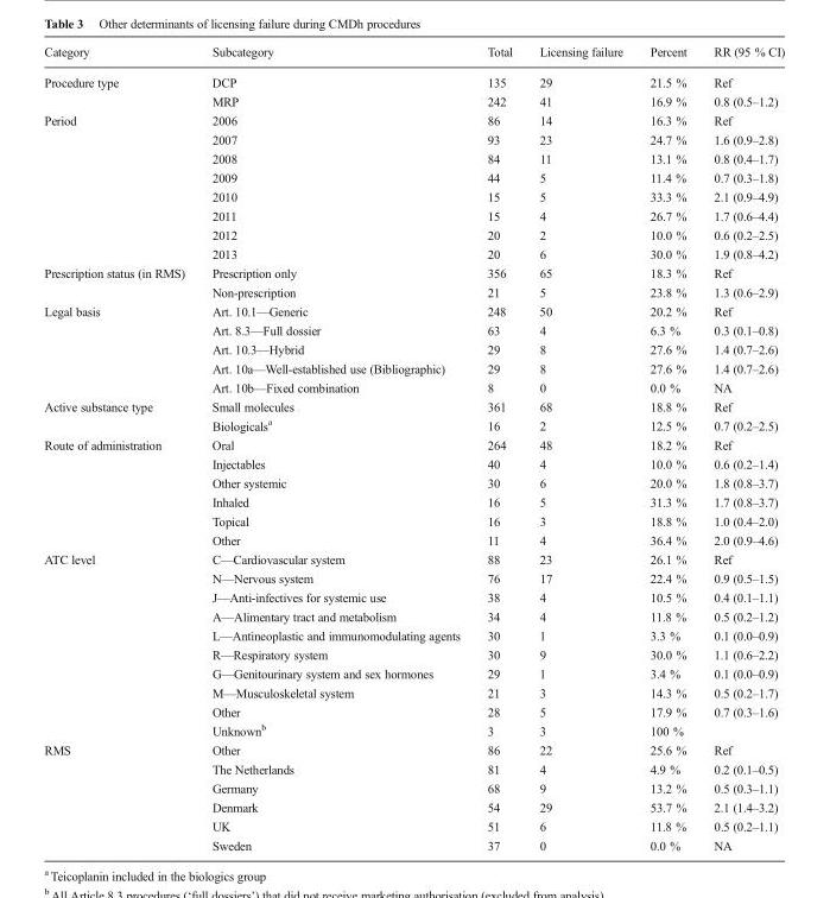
<table><thead><tr><td>Category</td><td>Subcategory</td><td>Total</td><td>Licensing failure</td><td>Percent</td><td>RR (95 % CI)</td></tr></thead><tbody><tr><td rowspan="2">Procedure type</td><td>DCP</td><td>135</td><td>29</td><td>21.5 %</td><td>Ref</td></tr><tr><td>MRP</td><td>242</td><td>41</td><td>16.9 %</td><td>0.8 (0.5–1.2)</td></tr><tr><td rowspan="8">Period</td><td>2006</td><td>86</td><td>14</td><td>16.3 %</td><td>Ref</td></tr><tr><td>2007</td><td>93</td><td>23</td><td>24.7 %</td><td>1.6 (0.9–2.8)</td></tr><tr><td>2008</td><td>84</td><td>11</td><td>13.1 %</td><td>0.8 (0.4–1.7)</td></tr><tr><td>2009</td><td>44</td><td>5</td><td>11.4 %</td><td>0.7 (0.3–1.8)</td></tr><tr><td>2010</td><td>15</td><td>5</td><td>33.3 %</td><td>2.1 (0.9–4.9)</td></tr><tr><td>2011</td><td>15</td><td>4</td><td>26.7 %</td><td>1.7 (0.6–4.4)</td></tr><tr><td>2012</td><td>20</td><td>2</td><td>10.0 %</td><td>0.6 (0.2–2.5)</td></tr><tr><td>2013</td><td>20</td><td>6</td><td>30.0 %</td><td>1.9 (0.8–4.2)</td></tr><tr><td rowspan="2">Prescription status (in RMS)</td><td>Prescription only</td><td>356</td><td>65</td><td>18.3 %</td><td>Ref</td></tr><tr><td>Non-prescription</td><td>21</td><td>5</td><td>23.8 %</td><td>1.3 (0.6–2.9)</td></tr><tr><td rowspan="5">Legal basis</td><td>Art. 10.1—Generic</td><td>248</td><td>50</td><td>20.2 %</td><td>Ref</td></tr><tr><td>Art. 8.3—Full dossier</td><td>63</td><td>4</td><td>6.3 %</td><td>0.3 (0.1–0.8)</td></tr><tr><td>Art. 10.3—Hybrid</td><td>29</td><td>8</td><td>27.6 %</td><td>1.4 (0.7–2.6)</td></tr><tr><td>Art. 10a—Well-established use (Bibliographic)</td><td>29</td><td>8</td><td>27.6 %</td><td>1.4 (0.7–2.6)</td></tr><tr><td>Art. 10b—Fixed combination</td><td>8</td><td>0</td><td>0.0 %</td><td>NA</td></tr><tr><td rowspan="2">Active substance type</td><td>Small molecules</td><td>361</td><td>68</td><td>18.8 %</td><td>Ref</td></tr><tr><td>Biologicals<sup>a</sup></td><td>16</td><td>2</td><td>12.5 %</td><td>0.7 (0.2–2.5)</td></tr><tr><td rowspan="6">Route of administration</td><td>Oral</td><td>264</td><td>48</td><td>18.2 %</td><td>Ref</td></tr><tr><td>Injectables</td><td>40</td><td>4</td><td>10.0 %</td><td>0.6 (0.2–1.4)</td></tr><tr><td>Other systemic</td><td>30</td><td>6</td><td>20.0 %</td><td>1.8 (0.8–3.7)</td></tr><tr><td>Inhaled</td><td>16</td><td>5</td><td>31.3 %</td><td>1.7 (0.8–3.7)</td></tr><tr><td>Topical</td><td>16</td><td>3</td><td>18.8 %</td><td>1.0 (0.4–2.0)</td></tr><tr><td>Other</td><td>11</td><td>4</td><td>36.4 %</td><td>2.0 (0.9–4.6)</td></tr><tr><td rowspan="10">ATC level</td><td>C—Cardiovascular system</td><td>88</td><td>23</td><td>26.1 %</td><td>Ref</td></tr><tr><td>N—Nervous system</td><td>76</td><td>17</td><td>22.4 %</td><td>0.9 (0.5–1.5)</td></tr><tr><td>J—Anti-infectives for systemic use</td><td>38</td><td>4</td><td>10.5 %</td><td>0.4 (0.1–1.1)</td></tr><tr><td>A—Alimentary tract and metabolism</td><td>34</td><td>4</td><td>11.8 %</td><td>0.5 (0.2–1.2)</td></tr><tr><td>L—Antineoplastic and immunomodulating agents</td><td>30</td><td>1</td><td>3.3 %</td><td>0.1 (0.0–0.9)</td></tr><tr><td>R—Respiratory system</td><td>30</td><td>9</td><td>30.0 %</td><td>1.1 (0.6–2.2)</td></tr><tr><td>G—Genitourinary system and sex hormones</td><td>29</td><td>1</td><td>3.4 %</td><td>0.1 (0.0–0.9)</td></tr><tr><td>M—Musculoskeletal system</td><td>21</td><td>3</td><td>14.3 %</td><td>0.5 (0.2–1.7)</td></tr><tr><td>Other</td><td>28</td><td>5</td><td>17.9 %</td><td>0.7 (0.3–1.6)</td></tr><tr><td>Unknown<sup>b</sup></td><td>3</td><td>3</td><td>100 %</td><td></td></tr><tr><td rowspan="6">RMS</td><td>Other</td><td>86</td><td>22</td><td>25.6 %</td><td>Ref</td></tr><tr><td>The Netherlands</td><td>81</td><td>4</td><td>4.9 %</td><td>0.2 (0.1–0.5)</td></tr><tr><td>Germany</td><td>68</td><td>9</td><td>13.2 %</td><td>0.5 (0.3–1.1)</td></tr><tr><td>Denmark</td><td>54</td><td>29</td><td>53.7 %</td><td>2.1 (1.4–3.2)</td></tr><tr><td>UK</td><td>51</td><td>6</td><td>11.8 %</td><td>0.5 (0.2–1.1)</td></tr><tr><td>Sweden</td><td>37</td><td>0</td><td>0.0 %</td><td>NA</td></tr></tbody></table>